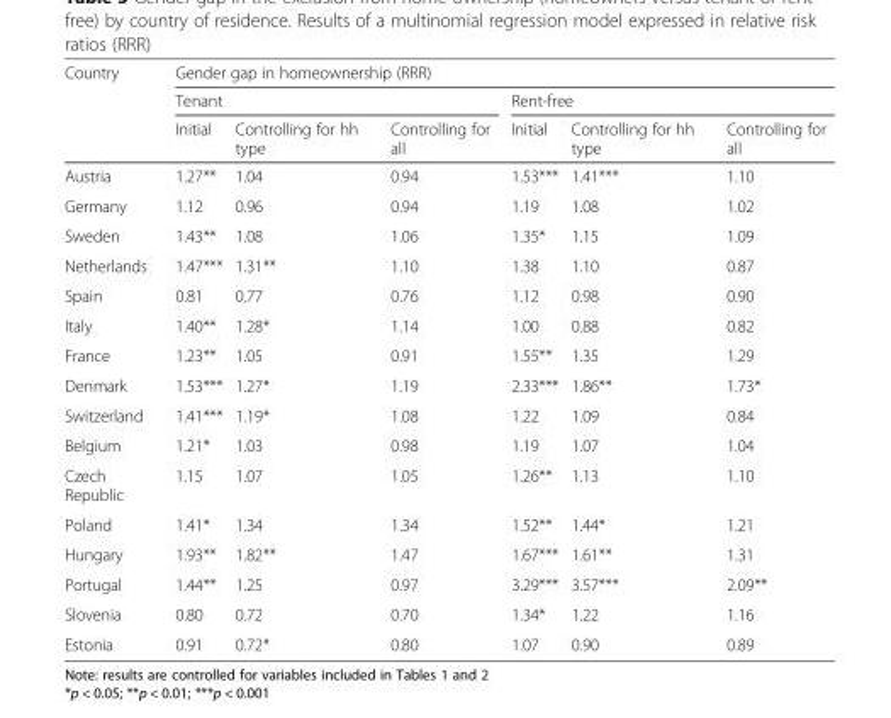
<table><thead><tr><td rowspan="3">Country</td><td colspan="6">Gender gap in homeownership (RRR)</td></tr><tr><td colspan="3">Tenant</td><td colspan="3">Rent-free</td></tr><tr><td>Initial</td><td>Controlling for hh type</td><td>Controlling for all</td><td>Initial</td><td>Controlling for hh type</td><td>Controlling for all</td></tr></thead><tbody><tr><td>Austria</td><td>1.27**</td><td>1.04</td><td>0.94</td><td>1.53***</td><td>1.41***</td><td>1.10</td></tr><tr><td>Germany</td><td>1.12</td><td>0.96</td><td>0.94</td><td>1.19</td><td>1.08</td><td>1.02</td></tr><tr><td>Sweden</td><td>1.43**</td><td>1.08</td><td>1.06</td><td>1.35*</td><td>1.15</td><td>1.09</td></tr><tr><td>Netherlands</td><td>1.47***</td><td>1.31**</td><td>1.10</td><td>1.38</td><td>1.10</td><td>0.87</td></tr><tr><td>Spain</td><td>0.81</td><td>0.77</td><td>0.76</td><td>1.12</td><td>0.98</td><td>0.90</td></tr><tr><td>Italy</td><td>1.40**</td><td>1.28*</td><td>1.14</td><td>1.00</td><td>0.88</td><td>0.82</td></tr><tr><td>France</td><td>1.23**</td><td>1.05</td><td>0.91</td><td>1.55**</td><td>1.35</td><td>1.29</td></tr><tr><td>Denmark</td><td>1.53***</td><td>1.27*</td><td>1.19</td><td>2.33***</td><td>1.86**</td><td>1.73*</td></tr><tr><td>Switzerland</td><td>1.41***</td><td>1.19*</td><td>1.08</td><td>1.22</td><td>1.09</td><td>0.84</td></tr><tr><td>Belgium</td><td>1.21*</td><td>1.03</td><td>0.98</td><td>1.19</td><td>1.07</td><td>1.04</td></tr><tr><td>Czech Republic</td><td>1.15</td><td>1.07</td><td>1.05</td><td>1.26**</td><td>1.13</td><td>1.10</td></tr><tr><td>Poland</td><td>1.41*</td><td>1.34</td><td>1.34</td><td>1.52**</td><td>1.44*</td><td>1.21</td></tr><tr><td>Hungary</td><td>1.93**</td><td>1.82**</td><td>1.47</td><td>1.67***</td><td>1.61**</td><td>1.31</td></tr><tr><td>Portugal</td><td>1.44**</td><td>1.25</td><td>0.97</td><td>3.29***</td><td>3.57***</td><td>2.09**</td></tr><tr><td>Slovenia</td><td>0.80</td><td>0.72</td><td>0.70</td><td>1.34*</td><td>1.22</td><td>1.16</td></tr><tr><td>Estonia</td><td>0.91</td><td>0.72*</td><td>0.80</td><td>1.07</td><td>0.90</td><td>0.89</td></tr></tbody></table>